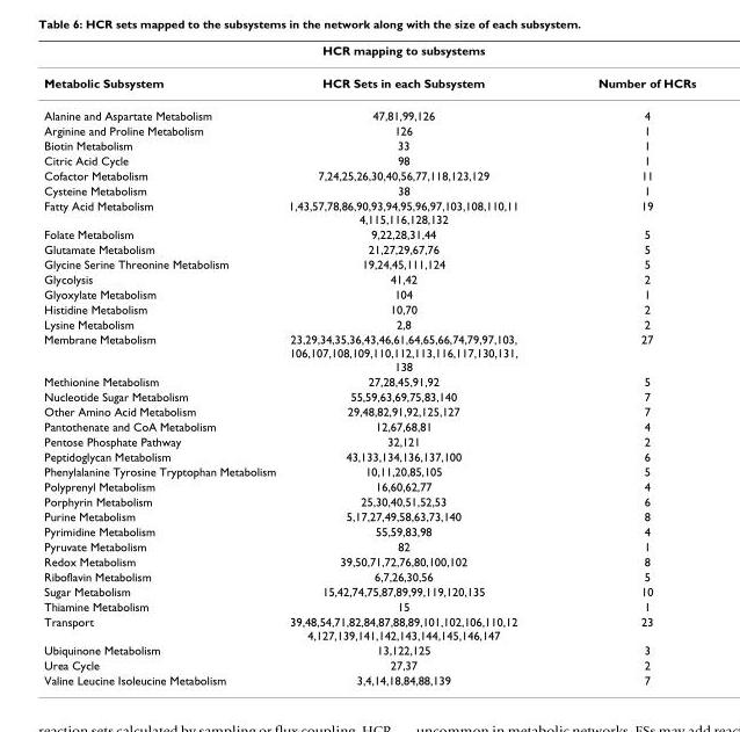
<table><thead><tr><td colspan="3">HCR mapping to subsystems</td></tr><tr><td>Metabolic Subsystem</td><td>HCR Sets in each Subsystem</td><td>Number of HCRs</td></tr></thead><tbody><tr><td>Alanine and Aspartate Metabolism</td><td>47,81,99,126</td><td>4</td></tr><tr><td>Arginine and Proline Metabolism</td><td>126</td><td>1</td></tr><tr><td>Biotin Metabolism</td><td>33</td><td>1</td></tr><tr><td>Citric Acid Cycle</td><td>98</td><td>1</td></tr><tr><td>Cofactor Metabolism</td><td>7,24,25,26,30,40,56,77,118,123,129</td><td>11</td></tr><tr><td>Cysteine Metabolism</td><td>38</td><td>1</td></tr><tr><td>Fatty Acid Metabolism</td><td>1,43,57,78,86,90,93,94,95,96,97,103,108,110,11 4,115,116,128,132</td><td>19</td></tr><tr><td>Folate Metabolism</td><td>9,22,28,31,44</td><td>5</td></tr><tr><td>Glutamate Metabolism</td><td>21,27,29,67,76</td><td>5</td></tr><tr><td>Glycine Serine Threonine Metabolism</td><td>19,24,45,111,124</td><td>5</td></tr><tr><td>Glycolysis</td><td>41,42</td><td>2</td></tr><tr><td>Glyoxylate Metabolism</td><td>104</td><td>1</td></tr><tr><td>Histidine Metabolism</td><td>10,70</td><td>2</td></tr><tr><td>Lysine Metabolism</td><td>2,8</td><td>2</td></tr><tr><td>Membrane Metabolism</td><td>23,29,34,35,36,43,46,61,64,65,66,74,79,97,103, 106,107,108,109,110,112,113,116,117,130,131, 138</td><td>27</td></tr><tr><td>Methionine Metabolism</td><td>27,28,45,91,92</td><td>5</td></tr><tr><td>Nucleotide Sugar Metabolism</td><td>55,59,63,69,75,83,140</td><td>7</td></tr><tr><td>Other Amino Acid Metabolism</td><td>29,48,82,91,92,125,127</td><td>7</td></tr><tr><td>Pantothenate and CoA Metabolism</td><td>12,67,68,81</td><td>4</td></tr><tr><td>Pentose Phosphate Pathway</td><td>32,121</td><td>2</td></tr><tr><td>Peptidoglycan Metabolism</td><td>43,133,134,136,137,100</td><td>6</td></tr><tr><td>Phenylalanine Tyrosine Tryptophan Metabolism</td><td>10,11,20,85,105</td><td>5</td></tr><tr><td>Polyprenyl Metabolism</td><td>16,60,62,77</td><td>4</td></tr><tr><td>Porphyrin Metabolism</td><td>25,30,40,51,52,53</td><td>6</td></tr><tr><td>Purine Metabolism</td><td>5,17,27,49,58,63,73,140</td><td>8</td></tr><tr><td>Pyrimidine Metabolism</td><td>55,59,83,98</td><td>4</td></tr><tr><td>Pyruvate Metabolism</td><td>82</td><td>1</td></tr><tr><td>Redox Metabolism</td><td>39,50,71,72,76,80,100,102</td><td>8</td></tr><tr><td>Riboflavin Metabolism</td><td>6,7,26,30,56</td><td>5</td></tr><tr><td>Sugar Metabolism</td><td>15,42,74,75,87,89,99,119,120,135</td><td>10</td></tr><tr><td>Thiamine Metabolism</td><td>15</td><td>1</td></tr><tr><td>Transport</td><td>39,48,54,71,82,84,87,88,89,101,102,106,110,12 4,127,139,141,142,143,144,145,146,147</td><td>23</td></tr><tr><td>Ubiquinone Metabolism</td><td>13,122,125</td><td>3</td></tr><tr><td>Urea Cycle</td><td>27,37</td><td>2</td></tr><tr><td>Valine Leucine Isoleucine Metabolism</td><td>3,4,14,18,84,88,139</td><td>7</td></tr></tbody></table>